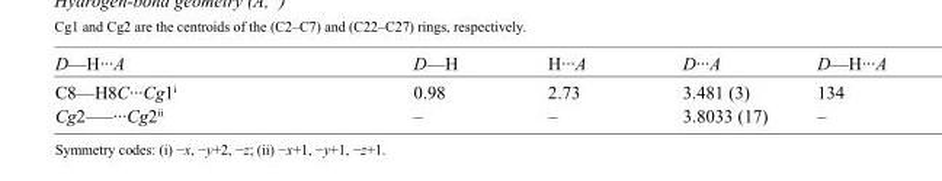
<table><tbody><tr><td>D—H···A</td><td>D—H</td><td>H···A</td><td>D···A</td><td>D—H···A</td></tr><tr><td>C8—H8C···Cg1<sup>i</sup></td><td>0.98</td><td>2.73</td><td>3.481 (3)</td><td>134</td></tr><tr><td>Cg2—–···Cg2<sup>ii</sup></td><td>–</td><td>–</td><td>3.8033 (17)</td><td>–</td></tr></tbody></table>